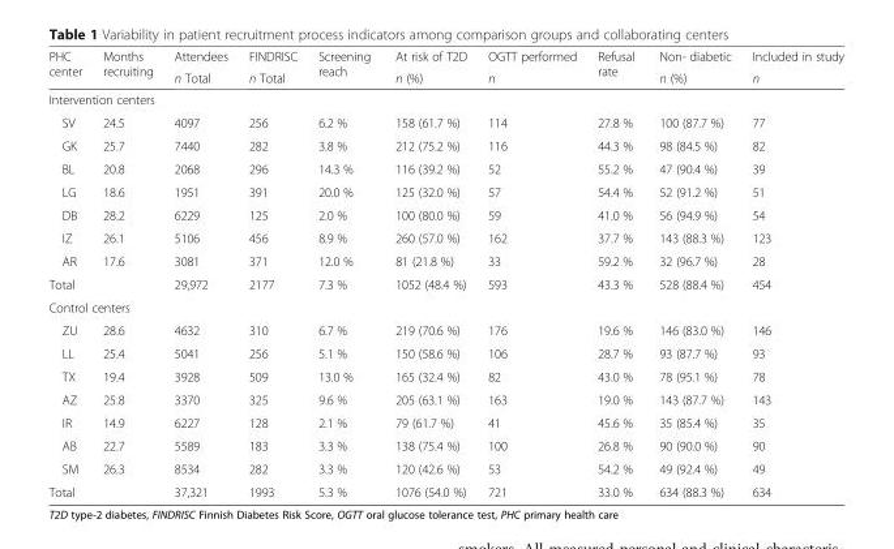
<table><thead><tr><td rowspan="2">PHC center</td><td rowspan="2">Months recruiting</td><td rowspan="2">Attendees n Total</td><td rowspan="2">FINDRISC n Total</td><td rowspan="2">Screening reach</td><td rowspan="2">At risk of T2D n (%)</td><td rowspan="2">OGTT performed n</td><td rowspan="2">Refusal rate</td><td rowspan="2">Non- diabetic n (%)</td><td rowspan="2">Included in study n</td></tr><tr></tr></thead><tbody><tr><td colspan="10">Intervention centers</td></tr><tr><td>SV</td><td>24.5</td><td>4097</td><td>256</td><td>6.2 %</td><td>158 (61.7 %)</td><td>114</td><td>27.8 %</td><td>100 (87.7 %)</td><td>77</td></tr><tr><td>GK</td><td>25.7</td><td>7440</td><td>282</td><td>3.8 %</td><td>212 (75.2 %)</td><td>116</td><td>44.3 %</td><td>98 (84.5 %)</td><td>82</td></tr><tr><td>BL</td><td>20.8</td><td>2068</td><td>296</td><td>14.3 %</td><td>116 (39.2 %)</td><td>52</td><td>55.2 %</td><td>47 (90.4 %)</td><td>39</td></tr><tr><td>LG</td><td>18.6</td><td>1951</td><td>391</td><td>20.0 %</td><td>125 (32.0 %)</td><td>57</td><td>54.4 %</td><td>52 (91.2 %)</td><td>51</td></tr><tr><td>DB</td><td>28.2</td><td>6229</td><td>125</td><td>2.0 %</td><td>100 (80.0 %)</td><td>59</td><td>41.0 %</td><td>56 (94.9 %)</td><td>54</td></tr><tr><td>IZ</td><td>26.1</td><td>5106</td><td>456</td><td>8.9 %</td><td>260 (57.0 %)</td><td>162</td><td>37.7 %</td><td>143 (88.3 %)</td><td>123</td></tr><tr><td>AR</td><td>17.6</td><td>3081</td><td>371</td><td>12.0 %</td><td>81 (21.8 %)</td><td>33</td><td>59.2 %</td><td>32 (96.7 %)</td><td>28</td></tr><tr><td>Total</td><td></td><td>29,972</td><td>2177</td><td>7.3 %</td><td>1052 (48.4 %)</td><td>593</td><td>43.3 %</td><td>528 (88.4 %)</td><td>454</td></tr><tr><td colspan="10">Control centers</td></tr><tr><td>ZU</td><td>28.6</td><td>4632</td><td>310</td><td>6.7 %</td><td>219 (70.6 %)</td><td>176</td><td>19.6 %</td><td>146 (83.0 %)</td><td>146</td></tr><tr><td>LL</td><td>25.4</td><td>5041</td><td>256</td><td>5.1 %</td><td>150 (58.6 %)</td><td>106</td><td>28.7 %</td><td>93 (87.7 %)</td><td>93</td></tr><tr><td>TX</td><td>19.4</td><td>3928</td><td>509</td><td>13.0 %</td><td>165 (32.4 %)</td><td>82</td><td>43.0 %</td><td>78 (95.1 %)</td><td>78</td></tr><tr><td>AZ</td><td>25.8</td><td>3370</td><td>325</td><td>9.6 %</td><td>205 (63.1 %)</td><td>163</td><td>19.0 %</td><td>143 (87.7 %)</td><td>143</td></tr><tr><td>IR</td><td>14.9</td><td>6227</td><td>128</td><td>2.1 %</td><td>79 (61.7 %)</td><td>41</td><td>45.6 %</td><td>35 (85.4 %)</td><td>35</td></tr><tr><td>AB</td><td>22.7</td><td>5589</td><td>183</td><td>3.3 %</td><td>138 (75.4 %)</td><td>100</td><td>26.8 %</td><td>90 (90.0 %)</td><td>90</td></tr><tr><td>SM</td><td>26.3</td><td>8534</td><td>282</td><td>3.3 %</td><td>120 (42.6 %)</td><td>53</td><td>54.2 %</td><td>49 (92.4 %)</td><td>49</td></tr><tr><td>Total</td><td></td><td>37,321</td><td>1993</td><td>5.3 %</td><td>1076 (54.0 %)</td><td>721</td><td>33.0 %</td><td>634 (88.3 %)</td><td>634</td></tr></tbody></table>